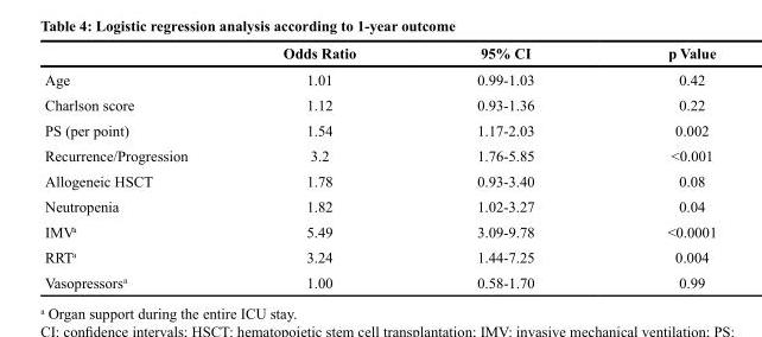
<table><thead><tr><td></td><td>Odds Ratio</td><td>95% CI</td><td>p Value</td></tr></thead><tbody><tr><td>Age</td><td>1.01</td><td>0.99-1.03</td><td>0.42</td></tr><tr><td>Charlson score</td><td>1.12</td><td>0.93-1.36</td><td>0.22</td></tr><tr><td>PS (per point)</td><td>1.54</td><td>1.17-2.03</td><td>0.002</td></tr><tr><td>Recurrence/Progression</td><td>3.2</td><td>1.76-5.85</td><td>&lt;0.001</td></tr><tr><td>Allogeneic HSCT</td><td>1.78</td><td>0.93-3.40</td><td>0.08</td></tr><tr><td>Neutropenia</td><td>1.82</td><td>1.02-3.27</td><td>0.04</td></tr><tr><td>IMV<sup>a</sup></td><td>5.49</td><td>3.09-9.78</td><td>&lt;0.0001</td></tr><tr><td>RRT<sup>a</sup></td><td>3.24</td><td>1.44-7.25</td><td>0.004</td></tr><tr><td>Vasopressors<sup>a</sup></td><td>1.00</td><td>0.58-1.70</td><td>0.99</td></tr></tbody></table>